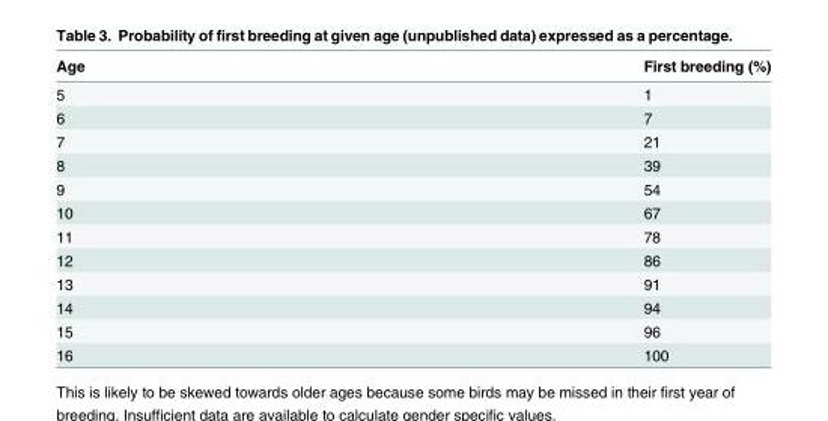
<table><thead><tr><td>Age</td><td>First breeding (%)</td></tr></thead><tbody><tr><td>5</td><td>1</td></tr><tr><td>6</td><td>7</td></tr><tr><td>7</td><td>21</td></tr><tr><td>8</td><td>39</td></tr><tr><td>9</td><td>54</td></tr><tr><td>10</td><td>67</td></tr><tr><td>11</td><td>78</td></tr><tr><td>12</td><td>86</td></tr><tr><td>13</td><td>91</td></tr><tr><td>14</td><td>94</td></tr><tr><td>15</td><td>96</td></tr><tr><td>16</td><td>100</td></tr></tbody></table>